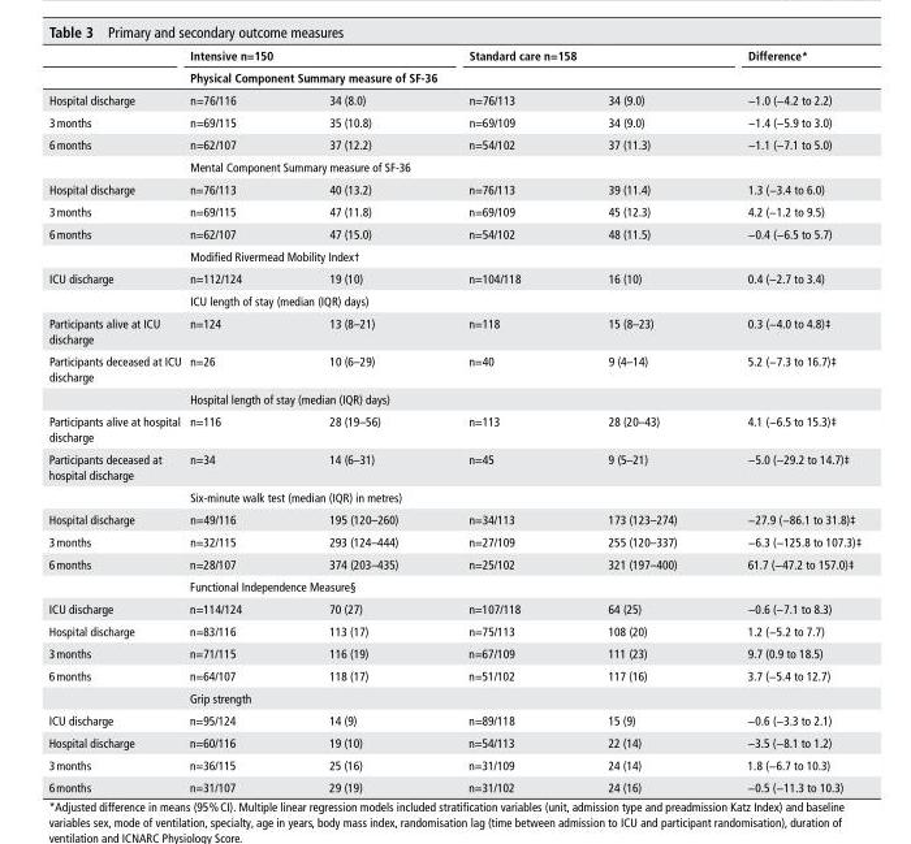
<table><thead><tr><td rowspan="3">Hospital discharge</td><td colspan="2">Intensive n=150</td><td colspan="2">standard care n=158</td><td>difference*</td></tr><tr><td colspan="5">Physical Component summary measure of sF-36</td></tr><tr><td>n=76/116</td><td>34 (8.0)</td><td>n=76/113</td><td>34 (9.0)</td><td>−1.0 (−4.2 to 2.2)</td></tr></thead><tbody><tr><td>3 months</td><td>n=69/115</td><td>35 (10.8)</td><td>n=69/109</td><td>34 (9.0)</td><td>−1.4 (−5.9 to 3.0)</td></tr><tr><td rowspan="2">6 months</td><td>n=62/107</td><td>37 (12.2)</td><td>n=54/102</td><td>37 (11.3)</td><td>−1.1 (−7.1 to 5.0)</td></tr><tr><td colspan="5">Mental Component Summary measure of SF-36</td></tr><tr><td>Hospital discharge</td><td>n=76/113</td><td>40 (13.2)</td><td>n=76/113</td><td>39 (11.4)</td><td>1.3 (−3.4 to 6.0)</td></tr><tr><td>3 months</td><td>n=69/115</td><td>47 (11.8)</td><td>n=69/109</td><td>45 (12.3)</td><td>4.2 (−1.2 to 9.5)</td></tr><tr><td rowspan="2">6 months</td><td>n=62/107</td><td>47 (15.0)</td><td>n=54/102</td><td>48 (11.5)</td><td>−0.4 (−6.5 to 5.7)</td></tr><tr><td colspan="5">Modified Rivermead Mobility Index†</td></tr><tr><td rowspan="2">ICU discharge</td><td>n=112/124</td><td>19 (10)</td><td>n=104/118</td><td>16 (10)</td><td>0.4 (−2.7 to 3.4)</td></tr><tr><td colspan="5">ICU length of stay (median (IQR) days)</td></tr><tr><td>Participants alive at ICU discharge</td><td>n=124</td><td>13 (8–21)</td><td>n=118</td><td>15 (8–23)</td><td>0.3 (−4.0 to 4.8)‡</td></tr><tr><td rowspan="2">Participants deceased at ICU discharge</td><td>n=26</td><td>10 (6–29)</td><td>n=40</td><td>9 (4–14)</td><td>5.2 (−7.3 to 16.7)‡</td></tr><tr><td colspan="5">Hospital length of stay (median (IQR) days)</td></tr><tr><td>Participants alive at hospital discharge</td><td>n=116</td><td>28 (19–56)</td><td>n=113</td><td>28 (20–43)</td><td>4.1 (−6.5 to 15.3)‡</td></tr><tr><td rowspan="2">Participants deceased at hospital discharge</td><td>n=34</td><td>14 (6–31)</td><td>n=45</td><td>9 (5–21)</td><td>−5.0 (−29.2 to 14.7)‡</td></tr><tr><td colspan="5">Six-minute walk test (median (IQR) in metres)</td></tr><tr><td>Hospital discharge</td><td>n=49/116</td><td>195 (120–260)</td><td>n=34/113</td><td>173 (123–274)</td><td>−27.9 (−86.1 to 31.8)‡</td></tr><tr><td>3 months</td><td>n=32/115</td><td>293 (124–444)</td><td>n=27/109</td><td>255 (120–337)</td><td>−6.3 (−125.8 to 107.3)‡</td></tr><tr><td rowspan="2">6 months</td><td>n=28/107</td><td>374 (203–435)</td><td>n=25/102</td><td>321 (197–400)</td><td>61.7 (−47.2 to 157.0)‡</td></tr><tr><td colspan="5">Functional Independence Measure§</td></tr><tr><td>ICU discharge</td><td>n=114/124</td><td>70 (27)</td><td>n=107/118</td><td>64 (25)</td><td>−0.6 (−7.1 to 8.3)</td></tr><tr><td>Hospital discharge</td><td>n=83/116</td><td>113 (17)</td><td>n=75/113</td><td>108 (20)</td><td>1.2 (−5.2 to 7.7)</td></tr><tr><td>3 months</td><td>n=71/115</td><td>116 (19)</td><td>n=67/109</td><td>111 (23)</td><td>9.7 (0.9 to 18.5)</td></tr><tr><td rowspan="2">6 months</td><td>n=64/107</td><td>118 (17)</td><td>n=51/102</td><td>117 (16)</td><td>3.7 (−5.4 to 12.7)</td></tr><tr><td colspan="5">Grip strength</td></tr><tr><td>ICU discharge</td><td>n=95/124</td><td>14 (9)</td><td>n=89/118</td><td>15 (9)</td><td>−0.6 (−3.3 to 2.1)</td></tr><tr><td>Hospital discharge</td><td>n=60/116</td><td>19 (10)</td><td>n=54/113</td><td>22 (14)</td><td>−3.5 (−8.1 to 1.2)</td></tr><tr><td>3 months</td><td>n=36/115</td><td>25 (16)</td><td>n=31/109</td><td>24 (14)</td><td>1.8 (−6.7 to 10.3)</td></tr><tr><td>6 months</td><td>n=31/107</td><td>29 (19)</td><td>n=31/102</td><td>24 (16)</td><td>−0.5 (−11.3 to 10.3)</td></tr></tbody></table>